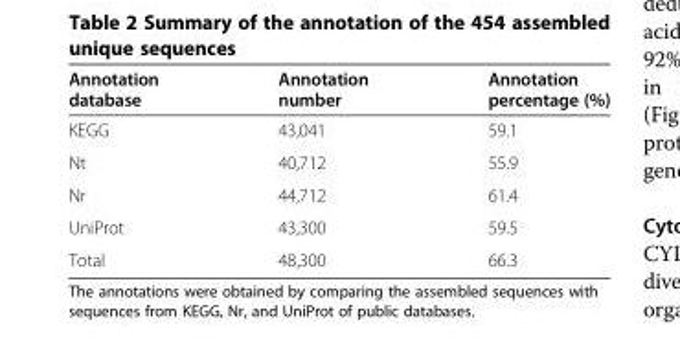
<table><thead><tr><td>Annotation database</td><td>Annotation number</td><td>Annotation percentage (%)</td></tr></thead><tbody><tr><td>KEGG</td><td>43,041</td><td>59.1</td></tr><tr><td>Nt</td><td>40,712</td><td>55.9</td></tr><tr><td>Nr</td><td>44,712</td><td>61.4</td></tr><tr><td>UniProt</td><td>43,300</td><td>59.5</td></tr><tr><td>Total</td><td>48,300</td><td>66.3</td></tr></tbody></table>